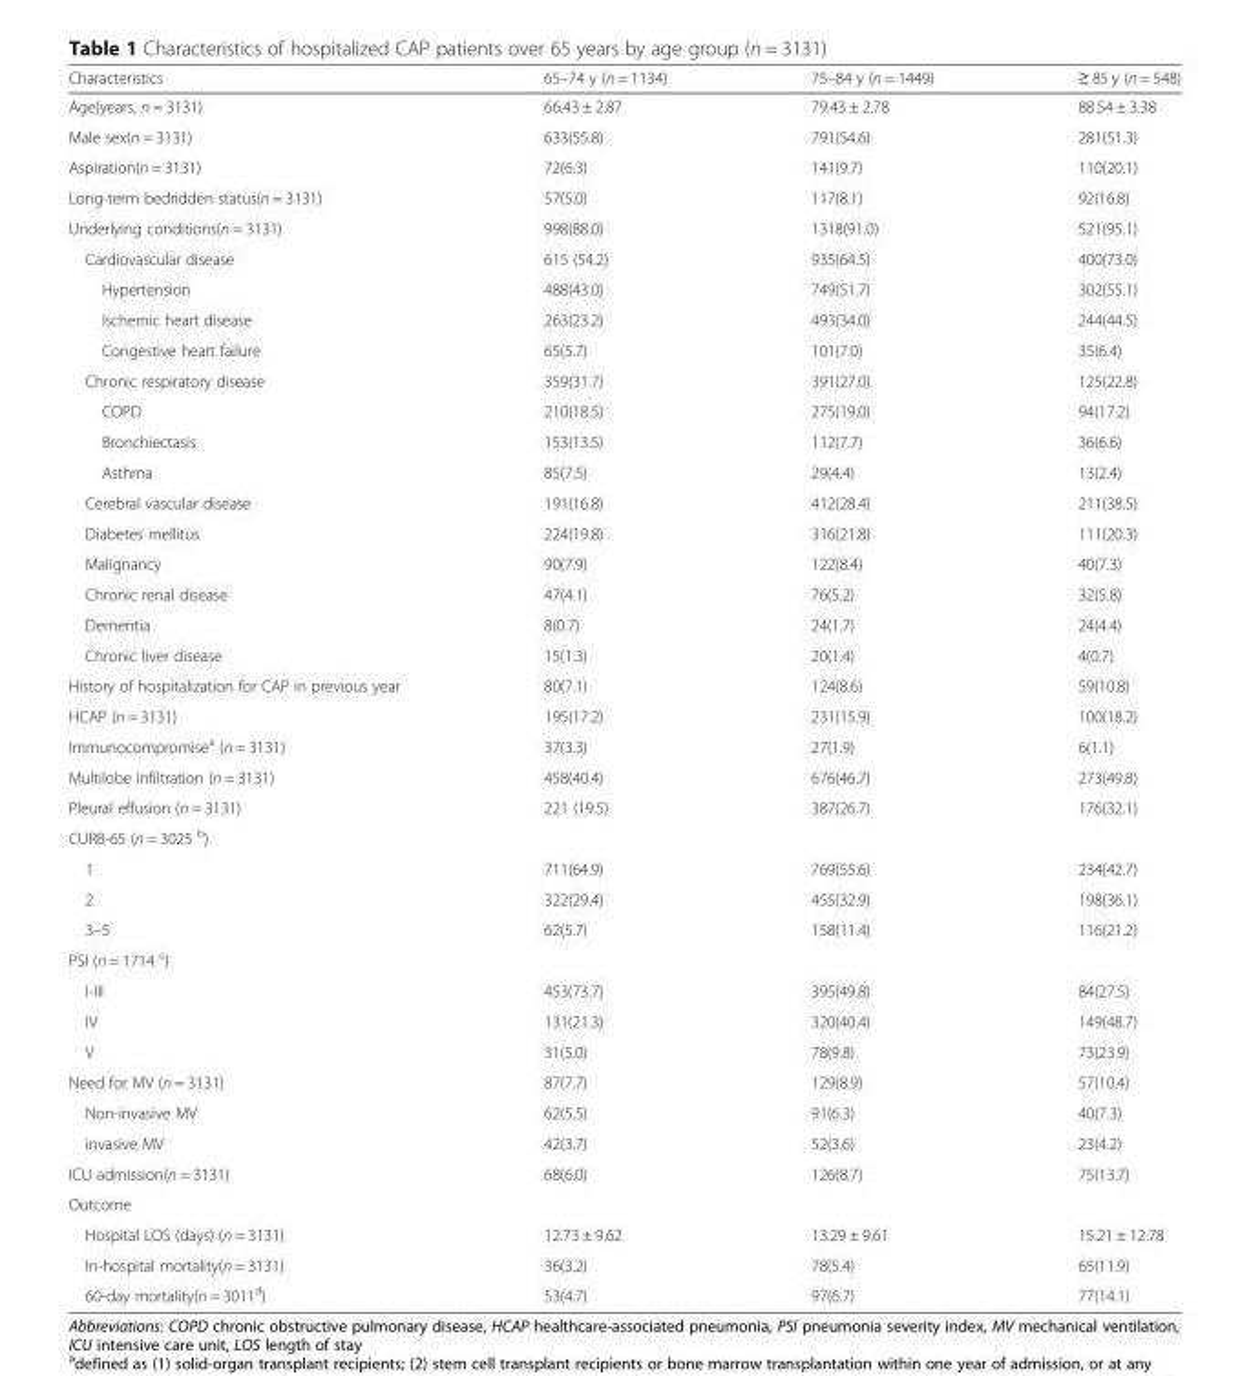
<table><thead><tr><td>Characteristics</td><td>65–74 y (n = 1134)</td><td>75–84 y (n = 1449)</td><td>≥ 85 y (n = 548)</td></tr></thead><tbody><tr><td>Age(years, n = 3131)</td><td>66.43 ± 2.87</td><td>79.43 ± 2.78</td><td>88.54 ± 3.38</td></tr><tr><td>Male sex(n = 3131)</td><td>633(55.8)</td><td>791(54.6)</td><td>281(51.3)</td></tr><tr><td>Aspiration(n = 3131)</td><td>72(6.3)</td><td>141(9.7)</td><td>110(20.1)</td></tr><tr><td>Long-term bedridden status(n = 3131)</td><td>57(5.0)</td><td>117(8.1)</td><td>92(16.8)</td></tr><tr><td>Underlying conditions(n = 3131)</td><td>998(88.0)</td><td>1318(91.0)</td><td>521(95.1)</td></tr><tr><td>Cardiovascular disease</td><td>615 (54.2)</td><td>935(64.5)</td><td>400(73.0)</td></tr><tr><td>Hypertension</td><td>488(43.0)</td><td>749(51.7)</td><td>302(55.1)</td></tr><tr><td>Ischemic heart disease</td><td>263(23.2)</td><td>493(34.0)</td><td>244(44.5)</td></tr><tr><td>Congestive heart failure</td><td>65(5.7)</td><td>101(7.0)</td><td>35(6.4)</td></tr><tr><td>Chronic respiratory disease</td><td>359(31.7)</td><td>391(27.0)</td><td>125(22.8)</td></tr><tr><td>COPD</td><td>210(18.5)</td><td>275(19.0)</td><td>94(17.2)</td></tr><tr><td>Bronchiectasis</td><td>153(13.5)</td><td>112(7.7)</td><td>36(6.6)</td></tr><tr><td>Asthma</td><td>85(7.5)</td><td>29(4.4)</td><td>13(2.4)</td></tr><tr><td>Cerebral vascular disease</td><td>191(16.8)</td><td>412(28.4)</td><td>211(38.5)</td></tr><tr><td>Diabetes mellitus</td><td>224(19.8)</td><td>316(21.8)</td><td>111(20.3)</td></tr><tr><td>Malignancy</td><td>90(7.9)</td><td>122(8.4)</td><td>40(7.3)</td></tr><tr><td>Chronic renal disease</td><td>47(4.1)</td><td>76(5.2)</td><td>32(5.8)</td></tr><tr><td>Dementia</td><td>8(0.7)</td><td>24(1.7)</td><td>24(4.4)</td></tr><tr><td>Chronic liver disease</td><td>15(1.3)</td><td>20(1.4)</td><td>4(0.7)</td></tr><tr><td>History of hospitalization for CAP in previous year</td><td>80(7.1)</td><td>124(8.6)</td><td>59(10.8)</td></tr><tr><td>HCAP (n = 3131)</td><td>195(17.2)</td><td>231(15.9)</td><td>100(18.2)</td></tr><tr><td>Immunocompromise<sup>a</sup> (n = 3131)</td><td>37(3.3)</td><td>27(1.9)</td><td>6(1.1)</td></tr><tr><td>Multilobe infiltration (n = 3131)</td><td>458(40.4)</td><td>676(46.7)</td><td>273(49.8)</td></tr><tr><td>Pleural effusion (n = 3131)</td><td>221 (19.5)</td><td>387(26.7)</td><td>176(32.1)</td></tr><tr><td colspan="4">CURB-65 (n = 3025 <sup>b</sup>)</td></tr><tr><td>1</td><td>711(64.9)</td><td>769(55.6)</td><td>234(42.7)</td></tr><tr><td>2</td><td>322(29.4)</td><td>455(32.9)</td><td>198(36.1)</td></tr><tr><td>3–5</td><td>62(5.7)</td><td>158(11.4)</td><td>116(21.2)</td></tr><tr><td colspan="4">PSI (n = 1714 <sup>c</sup>)</td></tr><tr><td>I-III</td><td>453(73.7)</td><td>395(49.8)</td><td>84(27.5)</td></tr><tr><td>IV</td><td>131(21.3)</td><td>320(40.4)</td><td>149(48.7)</td></tr><tr><td>V</td><td>31(5.0)</td><td>78(9.8)</td><td>73(23.9)</td></tr><tr><td>Need for MV (n = 3131)</td><td>87(7.7)</td><td>129(8.9)</td><td>57(10.4)</td></tr><tr><td>Non-invasive MV</td><td>62(5.5)</td><td>91(6.3)</td><td>40(7.3)</td></tr><tr><td>invasive MV</td><td>42(3.7)</td><td>52(3.6)</td><td>23(4.2)</td></tr><tr><td>ICU admission(n = 3131)</td><td>68(6.0)</td><td>126(8.7)</td><td>75(13.7)</td></tr><tr><td colspan="4">Outcome</td></tr><tr><td>Hospital LOS (days) (n = 3131)</td><td>12.73 ± 9.62</td><td>13.29 ± 9.61</td><td>15.21 ± 12.78</td></tr><tr><td>In-hospital mortality(n = 3131)</td><td>36(3.2)</td><td>78(5.4)</td><td>65(11.9)</td></tr><tr><td>60-day mortality(n = 3011<sup>d</sup>)</td><td>53(4.7)</td><td>97(6.7)</td><td>77(14.1)</td></tr></tbody></table>